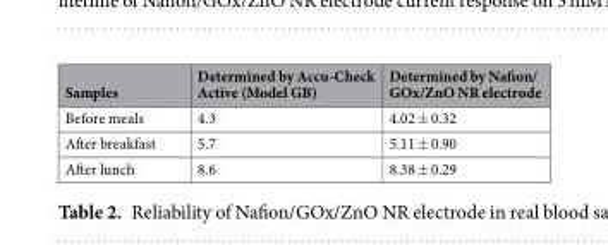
<table><thead><tr><td>Samples</td><td>Determined by Accu-Check Active (Model GB)</td><td>Determined by Nafion/ GOx/ZnO NR electrode</td></tr></thead><tbody><tr><td>Before meals</td><td>4.3</td><td>4.02 ± 0.32</td></tr><tr><td>After breakfast</td><td>5.7</td><td>5.11 ± 0.90</td></tr><tr><td>After lunch</td><td>8.6</td><td>8.38 ± 0.29</td></tr></tbody></table>